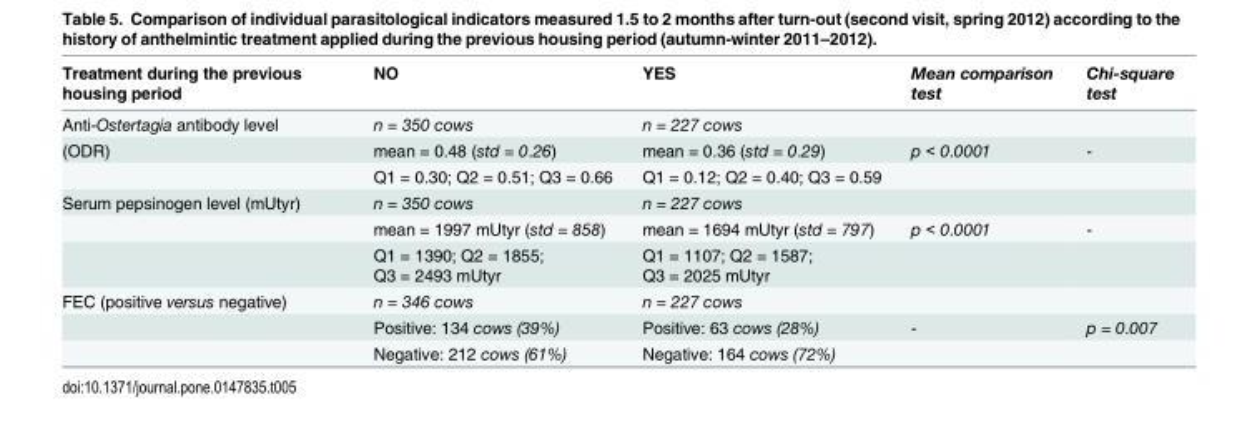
<table><thead><tr><td>Treatment during the previous housing period</td><td>NO</td><td>YES</td><td>Mean comparison test</td><td>Chi-square test</td></tr></thead><tbody><tr><td>Anti-Ostertagia antibody level</td><td>n = 350 cows</td><td>n = 227 cows</td><td></td><td></td></tr><tr><td rowspan="2">(ODR)</td><td>mean = 0.48 (std = 0.26)</td><td>mean = 0.36 (std = 0.29)</td><td>p &lt; 0.0001</td><td>-</td></tr><tr><td>Q1 = 0.30; Q2 = 0.51; Q3 = 0.66</td><td>Q1 = 0.12; Q2 = 0.40; Q3 = 0.59</td><td></td><td></td></tr><tr><td rowspan="3">Serum pepsinogen level (mUtyr)</td><td>n = 350 cows</td><td>n = 227 cows</td><td></td><td></td></tr><tr><td>mean = 1997 mUtyr (std = 858)</td><td>mean = 1694 mUtyr (std = 797)</td><td>p &lt; 0.0001</td><td>-</td></tr><tr><td>Q1 = 1390; Q2 = 1855; Q3 = 2493 mUtyr</td><td>Q1 = 1107; Q2 = 1587; Q3 = 2025 mUtyr</td><td></td><td></td></tr><tr><td rowspan="3">FEC (positive versus negative)</td><td>n = 346 cows</td><td>n = 227 cows</td><td></td><td></td></tr><tr><td>Positive: 134 cows (39%)</td><td>Positive: 63 cows (28%)</td><td>-</td><td>p = 0.007</td></tr><tr><td>Negative: 212 cows (61%)</td><td>Negative: 164 cows (72%)</td><td></td><td></td></tr></tbody></table>